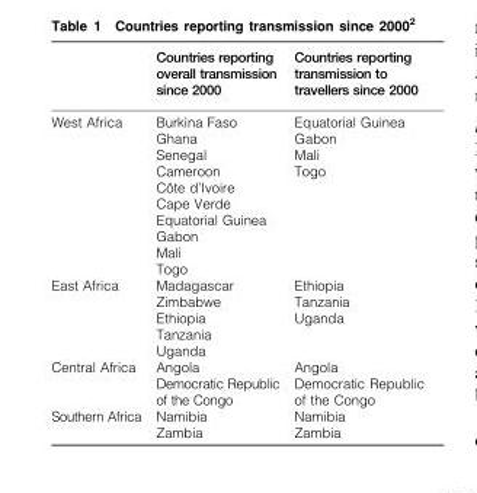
<table><thead><tr><td></td><td>Countries reporting overall transmission since 2000</td><td>Countries reporting transmission to travellers since 2000</td></tr></thead><tbody><tr><td rowspan="10">West Africa</td><td>Burkina Faso</td><td>Equatorial Guinea</td></tr><tr><td>Ghana</td><td>Gabon</td></tr><tr><td>Senegal</td><td>Mali</td></tr><tr><td>Cameroon</td><td>Togo</td></tr><tr><td>Coˆte d’Ivoire</td><td></td></tr><tr><td>Cape Verde</td><td></td></tr><tr><td>Equatorial Guinea</td><td></td></tr><tr><td>Gabon</td><td></td></tr><tr><td>Mali</td><td></td></tr><tr><td>Togo</td><td></td></tr><tr><td rowspan="5">East Africa</td><td>Madagascar</td><td>Ethiopia</td></tr><tr><td>Zimbabwe</td><td>Tanzania</td></tr><tr><td>Ethiopia</td><td>Uganda</td></tr><tr><td>Tanzania</td><td></td></tr><tr><td>Uganda</td><td></td></tr><tr><td rowspan="2">Central Africa</td><td>Angola</td><td>Angola</td></tr><tr><td>Democratic Republic of the Congo</td><td>Democratic Republic of the Congo</td></tr><tr><td rowspan="2">Southern Africa</td><td>Namibia</td><td>Namibia</td></tr><tr><td>Zambia</td><td>Zambia</td></tr></tbody></table>